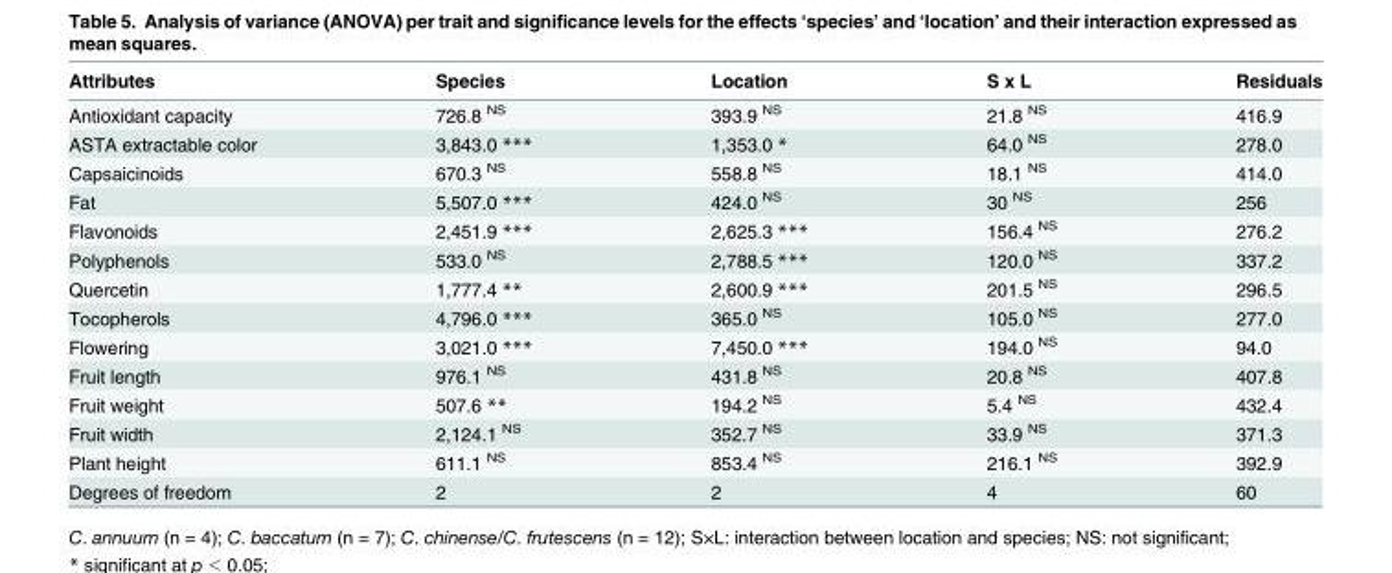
<table><thead><tr><td>Attributes</td><td>Species</td><td>Location</td><td>S x L</td><td>Residuals</td></tr></thead><tbody><tr><td>Antioxidant capacity</td><td>726.8 <sup>NS</sup></td><td>393.9 <sup>NS</sup></td><td>21.8 <sup>NS</sup></td><td>416.9</td></tr><tr><td>ASTA extractable color</td><td>3,843.0 ***</td><td>1,353.0 *</td><td>64.0 <sup>NS</sup></td><td>278.0</td></tr><tr><td>Capsaicinoids</td><td>670.3 <sup>NS</sup></td><td>558.8 <sup>NS</sup></td><td>18.1 <sup>NS</sup></td><td>414.0</td></tr><tr><td>Fat</td><td>5,507.0 ***</td><td>424.0 <sup>NS</sup></td><td>30 <sup>NS</sup></td><td>256</td></tr><tr><td>Flavonoids</td><td>2,451.9 ***</td><td>2,625.3 ***</td><td>156.4 <sup>NS</sup></td><td>276.2</td></tr><tr><td>Polyphenols</td><td>533.0 <sup>NS</sup></td><td>2,788.5 ***</td><td>120.0 <sup>NS</sup></td><td>337.2</td></tr><tr><td>Quercetin</td><td>1,777.4 **</td><td>2,600.9 ***</td><td>201.5 <sup>NS</sup></td><td>296.5</td></tr><tr><td>Tocopherols</td><td>4,796.0 ***</td><td>365.0 <sup>NS</sup></td><td>105.0 <sup>NS</sup></td><td>277.0</td></tr><tr><td>Flowering</td><td>3,021.0 ***</td><td>7,450.0 ***</td><td>194.0 <sup>NS</sup></td><td>94.0</td></tr><tr><td>Fruit length</td><td>976.1 <sup>NS</sup></td><td>431.8 <sup>NS</sup></td><td>20.8 <sup>NS</sup></td><td>407.8</td></tr><tr><td>Fruit weight</td><td>507.6 **</td><td>194.2 <sup>NS</sup></td><td>5.4 <sup>NS</sup></td><td>432.4</td></tr><tr><td>Fruit width</td><td>2,124.1 <sup>NS</sup></td><td>352.7 <sup>NS</sup></td><td>33.9 <sup>NS</sup></td><td>371.3</td></tr><tr><td>Plant height</td><td>611.1 <sup>NS</sup></td><td>853.4 <sup>NS</sup></td><td>216.1 <sup>NS</sup></td><td>392.9</td></tr><tr><td>Degrees of freedom</td><td>2</td><td>2</td><td>4</td><td>60</td></tr></tbody></table>